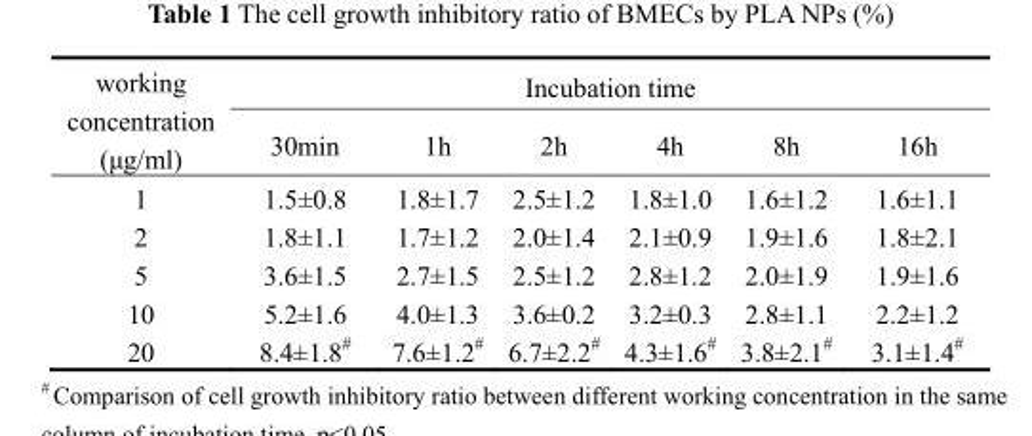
<table><thead><tr><td rowspan="2">working concentration (μg/ml)</td><td colspan="6">Incubation time</td></tr><tr><td>30min</td><td>1h</td><td>2h</td><td>4h</td><td>8h</td><td>16h</td></tr></thead><tbody><tr><td>1</td><td>1.5±0.8</td><td>1.8±1.7</td><td>2.5±1.2</td><td>1.8±1.0</td><td>1.6±1.2</td><td>1.6±1.1</td></tr><tr><td>2</td><td>1.8±1.1</td><td>1.7±1.2</td><td>2.0±1.4</td><td>2.1±0.9</td><td>1.9±1.6</td><td>1.8±2.1</td></tr><tr><td>5</td><td>3.6±1.5</td><td>2.7±1.5</td><td>2.5±1.2</td><td>2.8±1.2</td><td>2.0±1.9</td><td>1.9±1.6</td></tr><tr><td>10</td><td>5.2±1.6</td><td>4.0±1.3</td><td>3.6±0.2</td><td>3.2±0.3</td><td>2.8±1.1</td><td>2.2±1.2</td></tr><tr><td>20</td><td>8.4±1.8#</td><td>7.6±1.2#</td><td>6.7±2.2#</td><td>4.3±1.6#</td><td>3.8±2.1#</td><td>3.1±1.4#</td></tr></tbody></table>